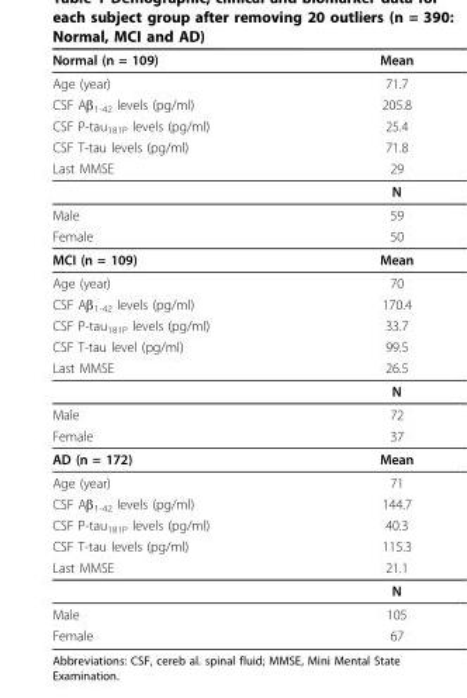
<table><thead><tr><td>Normal (n = 109)</td><td>Mean</td></tr></thead><tbody><tr><td>Age (year)</td><td>71.7</td></tr><tr><td>CSF Aβ<sub>1-42</sub> levels (pg/ml)</td><td>205.8</td></tr><tr><td>CSF P-tau<sub>181P</sub> levels (pg/ml)</td><td>25.4</td></tr><tr><td>CSF T-tau levels (pg/ml)</td><td>71.8</td></tr><tr><td rowspan="2">Last MMSE</td><td>29</td></tr><tr><td>N</td></tr><tr><td>Male</td><td>59</td></tr><tr><td>Female</td><td>50</td></tr><tr><td>MCI (n = 109)</td><td>Mean</td></tr><tr><td>Age (year)</td><td>70</td></tr><tr><td>CSF Aβ<sub>1-42</sub> levels (pg/ml)</td><td>170.4</td></tr><tr><td>CSF P-tau<sub>181P</sub> levels (pg/ml)</td><td>33.7</td></tr><tr><td>CSF T-tau level (pg/ml)</td><td>99.5</td></tr><tr><td rowspan="2">Last MMSE</td><td>26.5</td></tr><tr><td>N</td></tr><tr><td>Male</td><td>72</td></tr><tr><td>Female</td><td>37</td></tr><tr><td>AD (n = 172)</td><td>Mean</td></tr><tr><td>Age (year)</td><td>71</td></tr><tr><td>CSF Aβ<sub>1-42</sub> levels (pg/ml)</td><td>144.7</td></tr><tr><td>CSF P-tau<sub>181P</sub> levels (pg/ml)</td><td>40.3</td></tr><tr><td>CSF T-tau levels (pg/ml)</td><td>115.3</td></tr><tr><td rowspan="2">Last MMSE</td><td>21.1</td></tr><tr><td>N</td></tr><tr><td>Male</td><td>105</td></tr><tr><td>Female</td><td>67</td></tr></tbody></table>